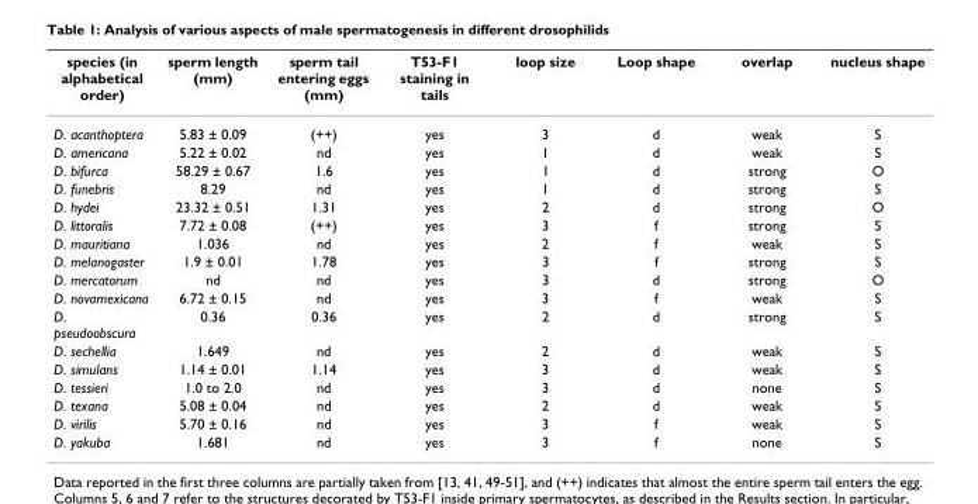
<table><thead><tr><td>species (in alphabetical order)</td><td>sperm length (mm)</td><td>sperm tail entering eggs (mm)</td><td>T53-F1 staining in tails</td><td>loop size</td><td>Loop shape</td><td>overlap</td><td>nucleus shape</td></tr></thead><tbody><tr><td>D. acanthoptera</td><td>5.83 ± 0.09</td><td>(++)</td><td>yes</td><td>3</td><td>d</td><td>weak</td><td>S</td></tr><tr><td>D. americana</td><td>5.22 ± 0.02</td><td>nd</td><td>yes</td><td>1</td><td>d</td><td>weak</td><td>S</td></tr><tr><td>D. bifurca</td><td>58.29 ± 0.67</td><td>1.6</td><td>yes</td><td>1</td><td>d</td><td>strong</td><td>O</td></tr><tr><td>D. funebris</td><td>8.29</td><td>nd</td><td>yes</td><td>1</td><td>d</td><td>strong</td><td>S</td></tr><tr><td>D. hydei</td><td>23.32 ± 0.51</td><td>1.31</td><td>yes</td><td>2</td><td>d</td><td>strong</td><td>O</td></tr><tr><td>D. littoralis</td><td>7.72 ± 0.08</td><td>(++)</td><td>yes</td><td>3</td><td>f</td><td>strong</td><td>S</td></tr><tr><td>D. mauritiana</td><td>1.036</td><td>nd</td><td>yes</td><td>2</td><td>f</td><td>weak</td><td>S</td></tr><tr><td>D. melanogaster</td><td>1.9 ± 0.01</td><td>1.78</td><td>yes</td><td>3</td><td>f</td><td>strong</td><td>S</td></tr><tr><td>D. mercatorum</td><td>nd</td><td>nd</td><td>yes</td><td>3</td><td>d</td><td>strong</td><td>O</td></tr><tr><td>D. novamexicana</td><td>6.72 ± 0.15</td><td>nd</td><td>yes</td><td>3</td><td>f</td><td>weak</td><td>S</td></tr><tr><td>D. pseudoobscura</td><td>0.36</td><td>0.36</td><td>yes</td><td>2</td><td>d</td><td>strong</td><td>S</td></tr><tr><td>D. sechellia</td><td>1.649</td><td>nd</td><td>yes</td><td>2</td><td>d</td><td>weak</td><td>S</td></tr><tr><td>D. simulans</td><td>1.14 ± 0.01</td><td>1.14</td><td>yes</td><td>3</td><td>d</td><td>weak</td><td>S</td></tr><tr><td>D. tessieri</td><td>1.0 to 2.0</td><td>nd</td><td>yes</td><td>3</td><td>d</td><td>none</td><td>S</td></tr><tr><td>D. texana</td><td>5.08 ± 0.04</td><td>nd</td><td>yes</td><td>2</td><td>d</td><td>weak</td><td>S</td></tr><tr><td>D. virilis</td><td>5.70 ± 0.16</td><td>nd</td><td>yes</td><td>3</td><td>f</td><td>weak</td><td>S</td></tr><tr><td>D. yakuba</td><td>1.681</td><td>nd</td><td>yes</td><td>3</td><td>f</td><td>none</td><td>S</td></tr></tbody></table>